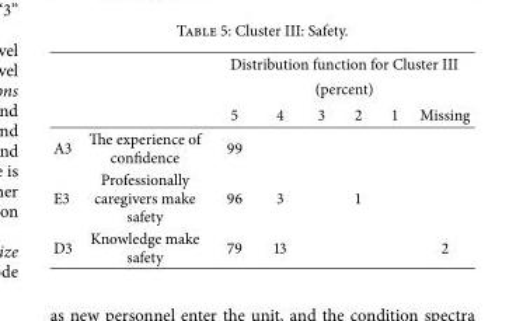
<table><thead><tr><td rowspan="3"></td><td rowspan="3"></td><td rowspan="2" colspan="6">Distribution function for Cluster III (percent)</td></tr><tr></tr><tr><td>5</td><td>4</td><td>3</td><td>2</td><td>1</td><td>Missing</td></tr></thead><tbody><tr><td>A3</td><td>The experience of confidence</td><td>99</td><td></td><td></td><td></td><td></td><td></td></tr><tr><td>E3</td><td>Professionally caregivers make safety</td><td>96</td><td>3</td><td></td><td>1</td><td></td><td></td></tr><tr><td>D3</td><td>Knowledge make safety</td><td>79</td><td>13</td><td></td><td></td><td></td><td>2</td></tr></tbody></table>